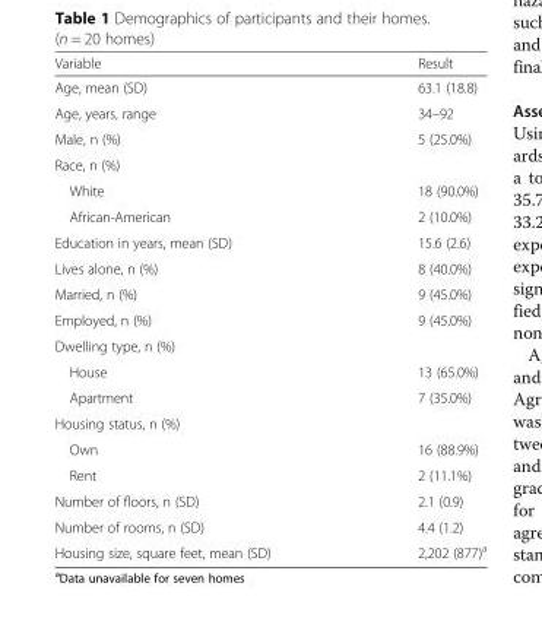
<table><thead><tr><td>Variable</td><td>Result</td></tr></thead><tbody><tr><td>Age, mean (SD)</td><td>63.1 (18.8)</td></tr><tr><td>Age, years, range</td><td>34–92</td></tr><tr><td>Male, n (%)</td><td>5 (25.0%)</td></tr><tr><td colspan="2">Race, n (%)</td></tr><tr><td>White</td><td>18 (90.0%)</td></tr><tr><td>African-American</td><td>2 (10.0%)</td></tr><tr><td>Education in years, mean (SD)</td><td>15.6 (2.6)</td></tr><tr><td>Lives alone, n (%)</td><td>8 (40.0%)</td></tr><tr><td>Married, n (%)</td><td>9 (45.0%)</td></tr><tr><td>Employed, n (%)</td><td>9 (45.0%)</td></tr><tr><td colspan="2">Dwelling type, n (%)</td></tr><tr><td>House</td><td>13 (65.0%)</td></tr><tr><td>Apartment</td><td>7 (35.0%)</td></tr><tr><td colspan="2">Housing status, n (%)</td></tr><tr><td>Own</td><td>16 (88.9%)</td></tr><tr><td>Rent</td><td>2 (11.1%)</td></tr><tr><td>Number of floors, n (SD)</td><td>2.1 (0.9)</td></tr><tr><td>Number of rooms, n (SD)</td><td>4.4 (1.2)</td></tr><tr><td>Housing size, square feet, mean (SD)</td><td>2,202 (877)<sup>a</sup></td></tr></tbody></table>